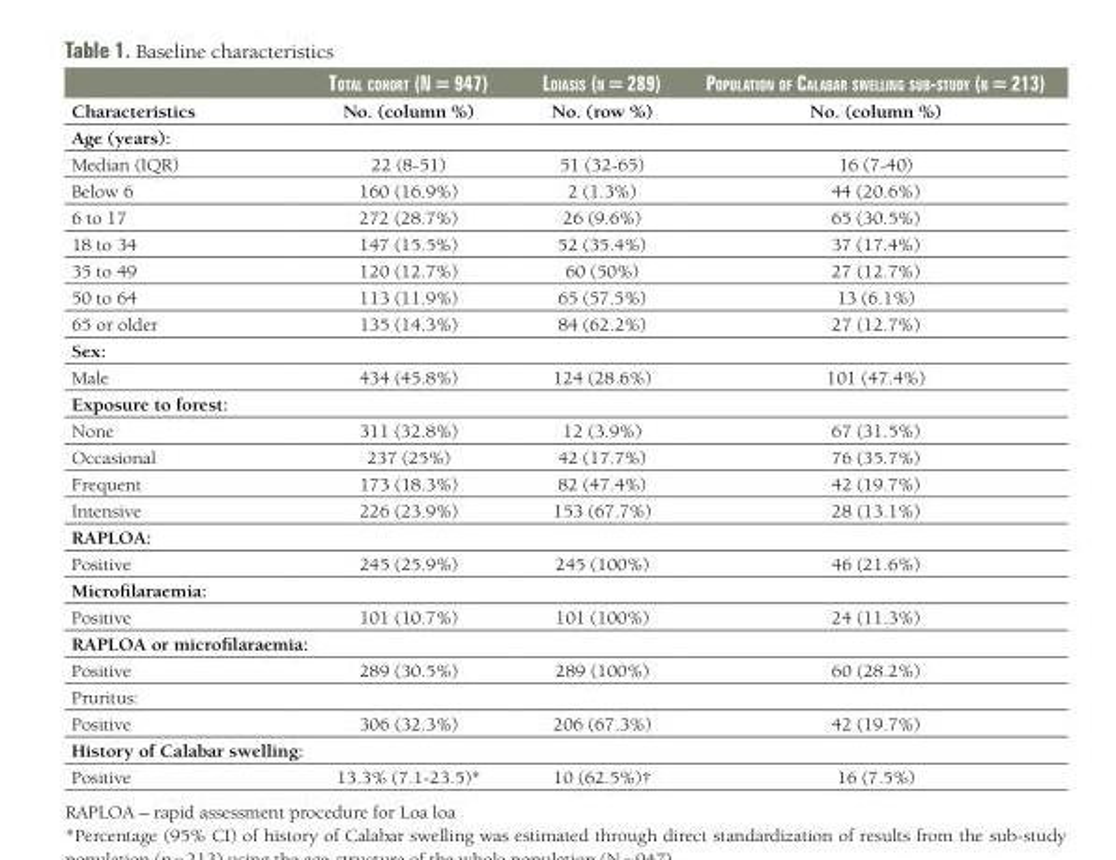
<table><thead><tr><td></td><td>ToTal cohorT (N = 947)</td><td>loiasis (N = 289)</td><td>PoPulaTioN of calabar swelliNg sub-sTudy (N = 213)</td></tr></thead><tbody><tr><td>Characteristics</td><td>No. (column %)</td><td>No. (row %)</td><td>No. (column %)</td></tr><tr><td colspan="4">Age (years):</td></tr><tr><td>Median (IQR)</td><td>22 (8-51)</td><td>51 (32-65)</td><td>16 (7-40)</td></tr><tr><td>Below 6</td><td>160 (16.9%)</td><td>2 (1.3%)</td><td>44 (20.6%)</td></tr><tr><td>6 to 17</td><td>272 (28.7%)</td><td>26 (9.6%)</td><td>65 (30.5%)</td></tr><tr><td>18 to 34</td><td>147 (15.5%)</td><td>52 (35.4%)</td><td>37 (17.4%)</td></tr><tr><td>35 to 49</td><td>120 (12.7%)</td><td>60 (50%)</td><td>27 (12.7%)</td></tr><tr><td>50 to 64</td><td>113 (11.9%)</td><td>65 (57.5%)</td><td>13 (6.1%)</td></tr><tr><td>65 or older</td><td>135 (14.3%)</td><td>84 (62.2%)</td><td>27 (12.7%)</td></tr><tr><td colspan="4">Sex:</td></tr><tr><td>Male</td><td>434 (45.8%)</td><td>124 (28.6%)</td><td>101 (47.4%)</td></tr><tr><td colspan="4">Exposure to forest:</td></tr><tr><td>None</td><td>311 (32.8%)</td><td>12 (3.9%)</td><td>67 (31.5%)</td></tr><tr><td>Occasional</td><td>237 (25%)</td><td>42 (17.7%)</td><td>76 (35.7%)</td></tr><tr><td>Frequent</td><td>173 (18.3%)</td><td>82 (47.4%)</td><td>42 (19.7%)</td></tr><tr><td>Intensive</td><td>226 (23.9%)</td><td>153 (67.7%)</td><td>28 (13.1%)</td></tr><tr><td colspan="4">RAPLOA:</td></tr><tr><td>Positive</td><td>245 (25.9%)</td><td>245 (100%)</td><td>46 (21.6%)</td></tr><tr><td colspan="4">Microfilaraemia:</td></tr><tr><td>Positive</td><td>101 (10.7%)</td><td>101 (100%)</td><td>24 (11.3%)</td></tr><tr><td colspan="4">RAPLOA or microfilaraemia:</td></tr><tr><td>Positive</td><td>289 (30.5%)</td><td>289 (100%)</td><td>60 (28.2%)</td></tr><tr><td colspan="4">Pruritus:</td></tr><tr><td>Positive</td><td>306 (32.3%)</td><td>206 (67.3%)</td><td>42 (19.7%)</td></tr><tr><td colspan="4">History of Calabar swelling:</td></tr><tr><td>Positive</td><td>13.3% (7.1-23.5)*</td><td>10 (62.5%)†</td><td>16 (7.5%)</td></tr></tbody></table>